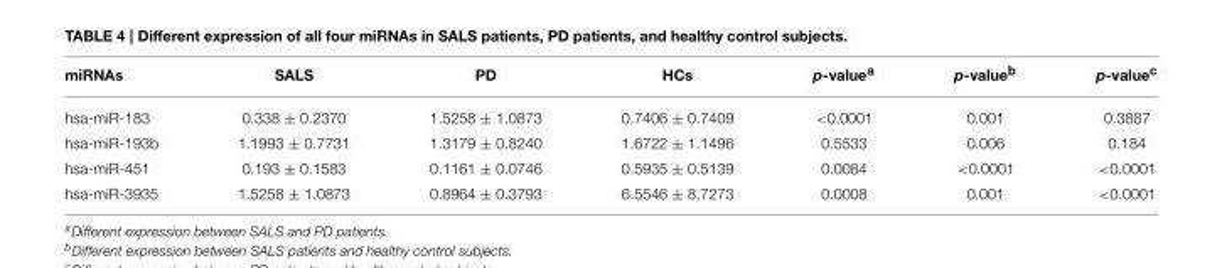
<table><thead><tr><td>miRNAs</td><td>SALS</td><td>PD</td><td>HCs</td><td>p-value<sup>a</sup></td><td>p-value<sup>b</sup></td><td>p-value<sup>c</sup></td></tr></thead><tbody><tr><td>hsa-miR-183</td><td>0.338 ± 0.2370</td><td>1.5258 ± 1.0873</td><td>0.7406 ± 0.7409</td><td>&lt;0.0001</td><td>0.001</td><td>0.3887</td></tr><tr><td>hsa-miR-193b</td><td>1.1993 ± 0.7731</td><td>1.3179 ± 0.8240</td><td>1.6722 ± 1.1496</td><td>0.5533</td><td>0.006</td><td>0.184</td></tr><tr><td>hsa-miR-451</td><td>0.193 ± 0.1583</td><td>0.1161 ± 0.0746</td><td>0.5935 ± 0.5139</td><td>0.0084</td><td>&lt;0.0001</td><td>&lt;0.0001</td></tr><tr><td>hsa-miR-3935</td><td>1.5258 ± 1.0873</td><td>0.8964 ± 0.3793</td><td>6.5546 ± 8.7273</td><td>0.0008</td><td>0.001</td><td>&lt;0.0001</td></tr></tbody></table>